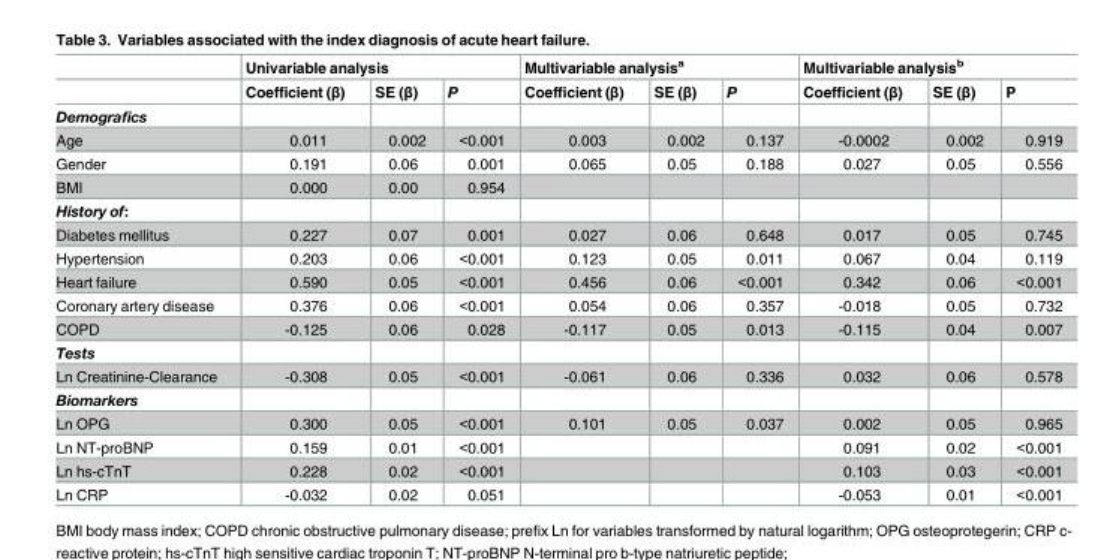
<table><thead><tr><td rowspan="2"></td><td colspan="3">Univariable analysis</td><td colspan="3">Multivariable analysis<sup>a</sup></td><td colspan="3">Multivariable analysis<sup>b</sup></td></tr><tr><td>Coefficient (β)</td><td>SE (β)</td><td>P</td><td>Coefficient (β)</td><td>SE (β)</td><td>P</td><td>Coefficient (β)</td><td>SE (β)</td><td>P</td></tr></thead><tbody><tr><td colspan="10">Demografics</td></tr><tr><td>Age</td><td>0.011</td><td>0.002</td><td>&lt;0.001</td><td>0.003</td><td>0.002</td><td>0.137</td><td>-0.0002</td><td>0.002</td><td>0.919</td></tr><tr><td>Gender</td><td>0.191</td><td>0.06</td><td>0.001</td><td>0.065</td><td>0.05</td><td>0.188</td><td>0.027</td><td>0.05</td><td>0.556</td></tr><tr><td>BMI</td><td>0.000</td><td>0.00</td><td>0.954</td><td></td><td></td><td></td><td></td><td></td><td></td></tr><tr><td colspan="10">History of:</td></tr><tr><td>Diabetes mellitus</td><td>0.227</td><td>0.07</td><td>0.001</td><td>0.027</td><td>0.06</td><td>0.648</td><td>0.017</td><td>0.05</td><td>0.745</td></tr><tr><td>Hypertension</td><td>0.203</td><td>0.06</td><td>&lt;0.001</td><td>0.123</td><td>0.05</td><td>0.011</td><td>0.067</td><td>0.04</td><td>0.119</td></tr><tr><td>Heart failure</td><td>0.590</td><td>0.05</td><td>&lt;0.001</td><td>0.456</td><td>0.06</td><td>&lt;0.001</td><td>0.342</td><td>0.06</td><td>&lt;0.001</td></tr><tr><td>Coronary artery disease</td><td>0.376</td><td>0.06</td><td>&lt;0.001</td><td>0.054</td><td>0.06</td><td>0.357</td><td>-0.018</td><td>0.05</td><td>0.732</td></tr><tr><td>COPD</td><td>-0.125</td><td>0.06</td><td>0.028</td><td>-0.117</td><td>0.05</td><td>0.013</td><td>-0.115</td><td>0.04</td><td>0.007</td></tr><tr><td colspan="10">Tests</td></tr><tr><td>Ln Creatinine-Clearance</td><td>-0.308</td><td>0.05</td><td>&lt;0.001</td><td>-0.061</td><td>0.06</td><td>0.336</td><td>0.032</td><td>0.06</td><td>0.578</td></tr><tr><td colspan="10">Biomarkers</td></tr><tr><td>Ln OPG</td><td>0.300</td><td>0.05</td><td>&lt;0.001</td><td>0.101</td><td>0.05</td><td>0.037</td><td>0.002</td><td>0.05</td><td>0.965</td></tr><tr><td>Ln NT-proBNP</td><td>0.159</td><td>0.01</td><td>&lt;0.001</td><td></td><td></td><td></td><td>0.091</td><td>0.02</td><td>&lt;0.001</td></tr><tr><td>Ln hs-cTnT</td><td>0.228</td><td>0.02</td><td>&lt;0.001</td><td></td><td></td><td></td><td>0.103</td><td>0.03</td><td>&lt;0.001</td></tr><tr><td>Ln CRP</td><td>-0.032</td><td>0.02</td><td>0.051</td><td></td><td></td><td></td><td>-0.053</td><td>0.01</td><td>&lt;0.001</td></tr></tbody></table>